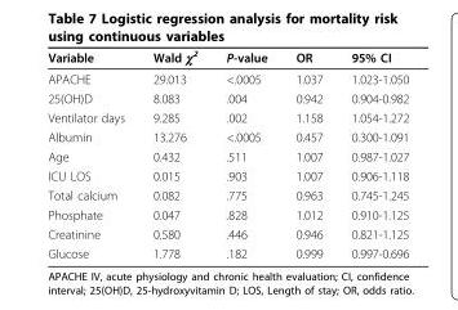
<table><thead><tr><td>Variable</td><td>Wald χ<sup>2</sup></td><td>P-value</td><td>OR</td><td>95% CI</td></tr></thead><tbody><tr><td>APACHE</td><td>29.013</td><td>&lt;.0005</td><td>1.037</td><td>1.023-1.050</td></tr><tr><td>25(OH)D</td><td>8.083</td><td>.004</td><td>0.942</td><td>0.904-0.982</td></tr><tr><td>Ventilator days</td><td>9.285</td><td>.002</td><td>1.158</td><td>1.054-1.272</td></tr><tr><td>Albumin</td><td>13.276</td><td>&lt;.0005</td><td>0.457</td><td>0.300-1.091</td></tr><tr><td>Age</td><td>0.432</td><td>.511</td><td>1.007</td><td>0.987-1.027</td></tr><tr><td>ICU LOS</td><td>0.015</td><td>.903</td><td>1.007</td><td>0.906-1.118</td></tr><tr><td>Total calcium</td><td>0.082</td><td>.775</td><td>0.963</td><td>0.745-1.245</td></tr><tr><td>Phosphate</td><td>0.047</td><td>.828</td><td>1.012</td><td>0.910-1.125</td></tr><tr><td>Creatinine</td><td>0.580</td><td>.446</td><td>0.946</td><td>0.821-1.125</td></tr><tr><td>Glucose</td><td>1.778</td><td>.182</td><td>0.999</td><td>0.997-0.696</td></tr></tbody></table>